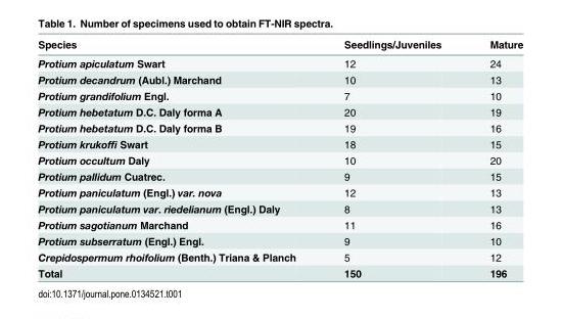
<table><thead><tr><td>Species</td><td>Seedlings/Juveniles</td><td>Mature</td></tr></thead><tbody><tr><td>Protium apiculatum Swart</td><td>12</td><td>24</td></tr><tr><td>Protium decandrum (Aubl.) Marchand</td><td>10</td><td>13</td></tr><tr><td>Protium grandifolium Engl.</td><td>7</td><td>10</td></tr><tr><td>Protium hebetatum D.C. Daly forma A</td><td>20</td><td>19</td></tr><tr><td>Protium hebetatum D.C. Daly forma B</td><td>19</td><td>16</td></tr><tr><td>Protium krukoffi Swart</td><td>18</td><td>15</td></tr><tr><td>Protium occultum Daly</td><td>10</td><td>20</td></tr><tr><td>Protium pallidum Cuatrec.</td><td>9</td><td>15</td></tr><tr><td>Protium paniculatum (Engl.) var. nova</td><td>12</td><td>13</td></tr><tr><td>Protium paniculatum var. riedelianum (Engl.) Daly</td><td>8</td><td>13</td></tr><tr><td>Protium sagotianum Marchand</td><td>11</td><td>16</td></tr><tr><td>Protium subserratum (Engl.) Engl.</td><td>9</td><td>10</td></tr><tr><td>Crepidospermum rhoifolium (Benth.) Triana &amp; Planch</td><td>5</td><td>12</td></tr><tr><td>Total</td><td>150</td><td>196</td></tr></tbody></table>